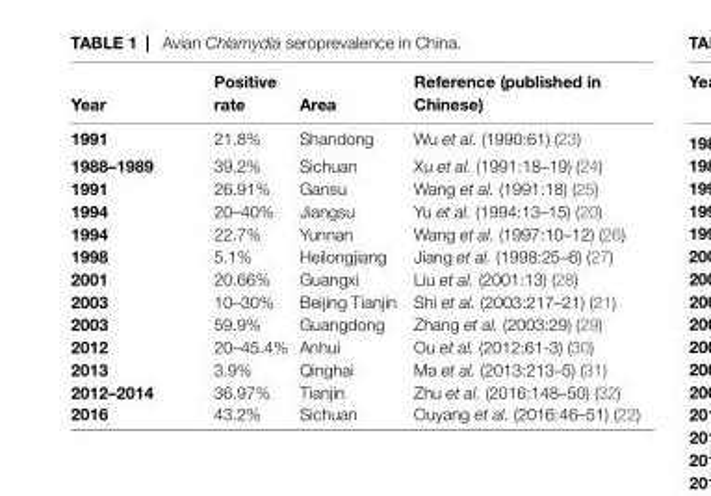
<table><thead><tr><td>Year</td><td>Positive rate</td><td>Area</td><td>Reference (published in Chinese)</td></tr></thead><tbody><tr><td>1991</td><td>21.8%</td><td>Shandong</td><td>Wu et al. (1990:61) (23)</td></tr><tr><td>1988–1989</td><td>39.2%</td><td>Sichuan</td><td>Xu et al. (1991:18–19) (24)</td></tr><tr><td>1991</td><td>26.91%</td><td>Gansu</td><td>Wang et al. (1991:18) (25)</td></tr><tr><td>1994</td><td>20–40%</td><td>Jiangsu</td><td>Yu et al. (1994:13–15) (20)</td></tr><tr><td>1994</td><td>22.7%</td><td>Yunnan</td><td>Wang et al. (1997:10–12) (26)</td></tr><tr><td>1998</td><td>5.1%</td><td>Heilongjiang</td><td>Jiang et al. (1998:25–6) (27)</td></tr><tr><td>2001</td><td>20.66%</td><td>Guangxi</td><td>Liu et al. (2001:13) (28)</td></tr><tr><td>2003</td><td>10–30%</td><td>Beijing Tianjin</td><td>Shi et al. (2003:217–21) (21)</td></tr><tr><td>2003</td><td>59.9%</td><td>Guangdong</td><td>Zhang et al. (2003:29) (29)</td></tr><tr><td>2012</td><td>20–45.4%</td><td>Anhui</td><td>Ou et al. (2012:61-3) (30)</td></tr><tr><td>2013</td><td>3.9%</td><td>Qinghai</td><td>Ma et al. (2013:213–5) (31)</td></tr><tr><td>2012–2014</td><td>36.97%</td><td>Tianjin</td><td>Zhu et al. (2016:148–50) (32)</td></tr><tr><td>2016</td><td>43.2%</td><td>Sichuan</td><td>Ouyang et al. (2016:46–51) (22)</td></tr></tbody></table>